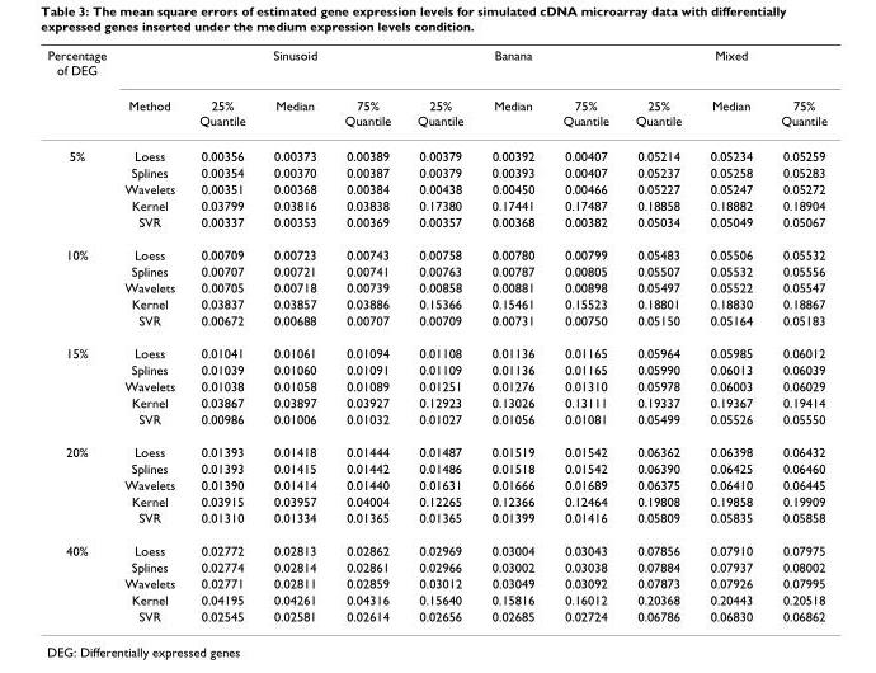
<table><thead><tr><td rowspan="2">Percentage of DEG</td><td rowspan="2">Method</td><td colspan="3">Sinusoid</td><td colspan="3">Banana</td><td colspan="3">Mixed</td></tr><tr><td>25% Quantile</td><td>Median</td><td>75% Quantile</td><td>25% Quantile</td><td>Median</td><td>75% Quantile</td><td>25% Quantile</td><td>Median</td><td>75% Quantile</td></tr></thead><tbody><tr><td rowspan="5">5%</td><td>Loess</td><td>0.00356</td><td>0.00373</td><td>0.00389</td><td>0.00379</td><td>0.00392</td><td>0.00407</td><td>0.05214</td><td>0.05234</td><td>0.05259</td></tr><tr><td>Splines</td><td>0.00354</td><td>0.00370</td><td>0.00387</td><td>0.00379</td><td>0.00393</td><td>0.00407</td><td>0.05237</td><td>0.05258</td><td>0.05283</td></tr><tr><td>Wavelets</td><td>0.00351</td><td>0.00368</td><td>0.00384</td><td>0.00438</td><td>0.00450</td><td>0.00466</td><td>0.05227</td><td>0.05247</td><td>0.05272</td></tr><tr><td>Kernel</td><td>0.03799</td><td>0.03816</td><td>0.03838</td><td>0.17380</td><td>0.17441</td><td>0.17487</td><td>0.18858</td><td>0.18882</td><td>0.18904</td></tr><tr><td>SVR</td><td>0.00337</td><td>0.00353</td><td>0.00369</td><td>0.00357</td><td>0.00368</td><td>0.00382</td><td>0.05034</td><td>0.05049</td><td>0.05067</td></tr><tr><td rowspan="5">10%</td><td>Loess</td><td>0.00709</td><td>0.00723</td><td>0.00743</td><td>0.00758</td><td>0.00780</td><td>0.00799</td><td>0.05483</td><td>0.05506</td><td>0.05532</td></tr><tr><td>Splines</td><td>0.00707</td><td>0.00721</td><td>0.00741</td><td>0.00763</td><td>0.00787</td><td>0.00805</td><td>0.05507</td><td>0.05532</td><td>0.05556</td></tr><tr><td>Wavelets</td><td>0.00705</td><td>0.00718</td><td>0.00739</td><td>0.00858</td><td>0.00881</td><td>0.00898</td><td>0.05497</td><td>0.05522</td><td>0.05547</td></tr><tr><td>Kernel</td><td>0.03837</td><td>0.03857</td><td>0.03886</td><td>0.15366</td><td>0.15461</td><td>0.15523</td><td>0.18801</td><td>0.18830</td><td>0.18867</td></tr><tr><td>SVR</td><td>0.00672</td><td>0.00688</td><td>0.00707</td><td>0.00709</td><td>0.00731</td><td>0.00750</td><td>0.05150</td><td>0.05164</td><td>0.05183</td></tr><tr><td rowspan="5">15%</td><td>Loess</td><td>0.01041</td><td>0.01061</td><td>0.01094</td><td>0.01108</td><td>0.01136</td><td>0.01165</td><td>0.05964</td><td>0.05985</td><td>0.06012</td></tr><tr><td>Splines</td><td>0.01039</td><td>0.01060</td><td>0.01091</td><td>0.01109</td><td>0.01136</td><td>0.01165</td><td>0.05990</td><td>0.06013</td><td>0.06039</td></tr><tr><td>Wavelets</td><td>0.01038</td><td>0.01058</td><td>0.01089</td><td>0.01251</td><td>0.01276</td><td>0.01310</td><td>0.05978</td><td>0.06003</td><td>0.06029</td></tr><tr><td>Kernel</td><td>0.03867</td><td>0.03897</td><td>0.03927</td><td>0.12923</td><td>0.13026</td><td>0.13111</td><td>0.19337</td><td>0.19367</td><td>0.19414</td></tr><tr><td>SVR</td><td>0.00986</td><td>0.01006</td><td>0.01032</td><td>0.01027</td><td>0.01056</td><td>0.01081</td><td>0.05499</td><td>0.05526</td><td>0.05550</td></tr><tr><td rowspan="5">20%</td><td>Loess</td><td>0.01393</td><td>0.01418</td><td>0.01444</td><td>0.01487</td><td>0.01519</td><td>0.01542</td><td>0.06362</td><td>0.06398</td><td>0.06432</td></tr><tr><td>Splines</td><td>0.01393</td><td>0.01415</td><td>0.01442</td><td>0.01486</td><td>0.01518</td><td>0.01542</td><td>0.06390</td><td>0.06425</td><td>0.06460</td></tr><tr><td>Wavelets</td><td>0.01390</td><td>0.01414</td><td>0.01440</td><td>0.01631</td><td>0.01666</td><td>0.01689</td><td>0.06375</td><td>0.06410</td><td>0.06445</td></tr><tr><td>Kernel</td><td>0.03915</td><td>0.03957</td><td>0.04004</td><td>0.12265</td><td>0.12366</td><td>0.12464</td><td>0.19808</td><td>0.19858</td><td>0.19909</td></tr><tr><td>SVR</td><td>0.01310</td><td>0.01334</td><td>0.01365</td><td>0.01365</td><td>0.01399</td><td>0.01416</td><td>0.05809</td><td>0.05835</td><td>0.05858</td></tr><tr><td rowspan="5">40%</td><td>Loess</td><td>0.02772</td><td>0.02813</td><td>0.02862</td><td>0.02969</td><td>0.03004</td><td>0.03043</td><td>0.07856</td><td>0.07910</td><td>0.07975</td></tr><tr><td>Splines</td><td>0.02774</td><td>0.02814</td><td>0.02861</td><td>0.02966</td><td>0.03002</td><td>0.03038</td><td>0.07884</td><td>0.07937</td><td>0.08002</td></tr><tr><td>Wavelets</td><td>0.02771</td><td>0.02811</td><td>0.02859</td><td>0.03012</td><td>0.03049</td><td>0.03092</td><td>0.07873</td><td>0.07926</td><td>0.07995</td></tr><tr><td>Kernel</td><td>0.04195</td><td>0.04261</td><td>0.04316</td><td>0.15640</td><td>0.15816</td><td>0.16012</td><td>0.20368</td><td>0.20443</td><td>0.20518</td></tr><tr><td>SVR</td><td>0.02545</td><td>0.02581</td><td>0.02614</td><td>0.02656</td><td>0.02685</td><td>0.02724</td><td>0.06786</td><td>0.06830</td><td>0.06862</td></tr></tbody></table>